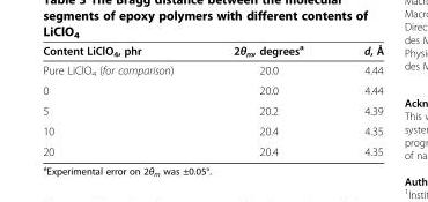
<table><thead><tr><td>Content LiClO<sub>4</sub>, phr</td><td>2θ<sub>m</sub>, degrees<sup>a</sup></td><td>d, Å</td></tr></thead><tbody><tr><td>Pure LiClO<sub>4</sub> (for comparison)</td><td>20.0</td><td>4.44</td></tr><tr><td>0</td><td>20.0</td><td>4.44</td></tr><tr><td>5</td><td>20.2</td><td>4.39</td></tr><tr><td>10</td><td>20.4</td><td>4.35</td></tr><tr><td>20</td><td>20.4</td><td>4.35</td></tr></tbody></table>